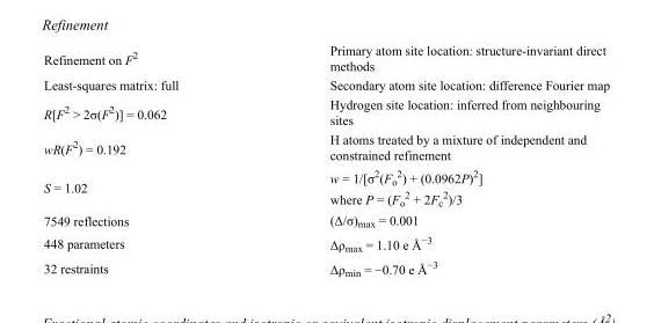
<table><tbody><tr><td>Refinement on F<sup>2</sup></td><td>Primary atom site location: structure-invariant direct methods</td></tr><tr><td>Least-squares matrix: full</td><td>Secondary atom site location: difference Fourier map</td></tr><tr><td>R[F<sup>2</sup> &gt; 2σ(F<sup>2</sup>)] = 0.062</td><td>Hydrogen site location: inferred from neighbouring sites</td></tr><tr><td>wR(F<sup>2</sup>) = 0.192</td><td>H atoms treated by a mixture of independent and constrained refinement</td></tr><tr><td>S = 1.02</td><td>w = 1/[σ<sup>2</sup>(F<sub>o</sub> <sup>2</sup>) + (0.0962P)<sup>2</sup>] where P = (F<sub>o</sub> <sup>2</sup> + 2F<sub>c</sub> <sup>2</sup>)/3</td></tr><tr><td>7549 reflections</td><td>(Δ/σ)<sub>max</sub> = 0.001</td></tr><tr><td>448 parameters</td><td>Δρ<sub>max</sub> = 1.10 e Å<sup>−3</sup></td></tr><tr><td>32 restraints</td><td>Δρmin = −0.70 e Å−3</td></tr></tbody></table>